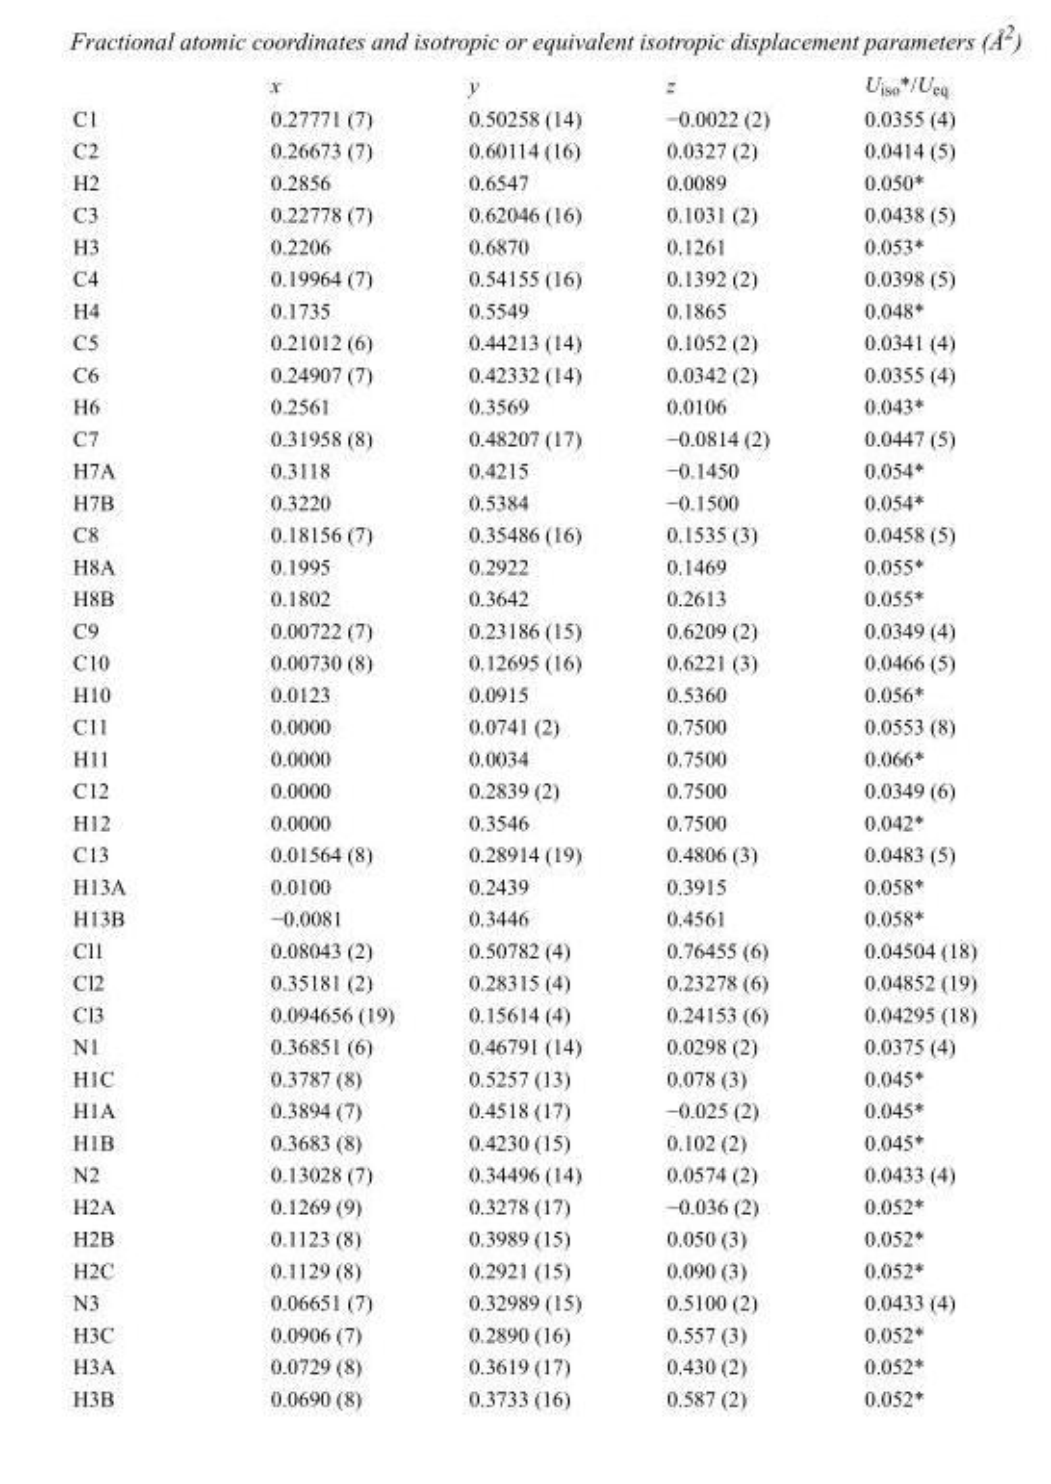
<table><thead><tr><td></td><td>x</td><td>y</td><td>z</td><td>U<sub>iso</sub>*/U<sub>eq</sub></td></tr></thead><tbody><tr><td>C1</td><td>0.27771 (7)</td><td>0.50258 (14)</td><td>−0.0022 (2)</td><td>0.0355 (4)</td></tr><tr><td>C2</td><td>0.26673 (7)</td><td>0.60114 (16)</td><td>0.0327 (2)</td><td>0.0414 (5)</td></tr><tr><td>H2</td><td>0.2856</td><td>0.6547</td><td>0.0089</td><td>0.050*</td></tr><tr><td>C3</td><td>0.22778 (7)</td><td>0.62046 (16)</td><td>0.1031 (2)</td><td>0.0438 (5)</td></tr><tr><td>H3</td><td>0.2206</td><td>0.6870</td><td>0.1261</td><td>0.053*</td></tr><tr><td>C4</td><td>0.19964 (7)</td><td>0.54155 (16)</td><td>0.1392 (2)</td><td>0.0398 (5)</td></tr><tr><td>H4</td><td>0.1735</td><td>0.5549</td><td>0.1865</td><td>0.048*</td></tr><tr><td>C5</td><td>0.21012 (6)</td><td>0.44213 (14)</td><td>0.1052 (2)</td><td>0.0341 (4)</td></tr><tr><td>C6</td><td>0.24907 (7)</td><td>0.42332 (14)</td><td>0.0342 (2)</td><td>0.0355 (4)</td></tr><tr><td>H6</td><td>0.2561</td><td>0.3569</td><td>0.0106</td><td>0.043*</td></tr><tr><td>C7</td><td>0.31958 (8)</td><td>0.48207 (17)</td><td>−0.0814 (2)</td><td>0.0447 (5)</td></tr><tr><td>H7A</td><td>0.3118</td><td>0.4215</td><td>−0.1450</td><td>0.054*</td></tr><tr><td>H7B</td><td>0.3220</td><td>0.5384</td><td>−0.1500</td><td>0.054*</td></tr><tr><td>C8</td><td>0.18156 (7)</td><td>0.35486 (16)</td><td>0.1535 (3)</td><td>0.0458 (5)</td></tr><tr><td>H8A</td><td>0.1995</td><td>0.2922</td><td>0.1469</td><td>0.055*</td></tr><tr><td>H8B</td><td>0.1802</td><td>0.3642</td><td>0.2613</td><td>0.055*</td></tr><tr><td>C9</td><td>0.00722 (7)</td><td>0.23186 (15)</td><td>0.6209 (2)</td><td>0.0349 (4)</td></tr><tr><td>C10</td><td>0.00730 (8)</td><td>0.12695 (16)</td><td>0.6221 (3)</td><td>0.0466 (5)</td></tr><tr><td>H10</td><td>0.0123</td><td>0.0915</td><td>0.5360</td><td>0.056*</td></tr><tr><td>C11</td><td>0.0000</td><td>0.0741 (2)</td><td>0.7500</td><td>0.0553 (8)</td></tr><tr><td>H11</td><td>0.0000</td><td>0.0034</td><td>0.7500</td><td>0.066*</td></tr><tr><td>C12</td><td>0.0000</td><td>0.2839 (2)</td><td>0.7500</td><td>0.0349 (6)</td></tr><tr><td>H12</td><td>0.0000</td><td>0.3546</td><td>0.7500</td><td>0.042*</td></tr><tr><td>C13</td><td>0.01564 (8)</td><td>0.28914 (19)</td><td>0.4806 (3)</td><td>0.0483 (5)</td></tr><tr><td>H13A</td><td>0.0100</td><td>0.2439</td><td>0.3915</td><td>0.058*</td></tr><tr><td>H13B</td><td>−0.0081</td><td>0.3446</td><td>0.4561</td><td>0.058*</td></tr><tr><td>Cl1</td><td>0.08043 (2)</td><td>0.50782 (4)</td><td>0.76455 (6)</td><td>0.04504 (18)</td></tr><tr><td>Cl2</td><td>0.35181 (2)</td><td>0.28315 (4)</td><td>0.23278 (6)</td><td>0.04852 (19)</td></tr><tr><td>Cl3</td><td>0.094656 (19)</td><td>0.15614 (4)</td><td>0.24153 (6)</td><td>0.04295 (18)</td></tr><tr><td>N1</td><td>0.36851 (6)</td><td>0.46791 (14)</td><td>0.0298 (2)</td><td>0.0375 (4)</td></tr><tr><td>H1C</td><td>0.3787 (8)</td><td>0.5257 (13)</td><td>0.078 (3)</td><td>0.045*</td></tr><tr><td>H1A</td><td>0.3894 (7)</td><td>0.4518 (17)</td><td>−0.025 (2)</td><td>0.045*</td></tr><tr><td>H1B</td><td>0.3683 (8)</td><td>0.4230 (15)</td><td>0.102 (2)</td><td>0.045*</td></tr><tr><td>N2</td><td>0.13028 (7)</td><td>0.34496 (14)</td><td>0.0574 (2)</td><td>0.0433 (4)</td></tr><tr><td>H2A</td><td>0.1269 (9)</td><td>0.3278 (17)</td><td>−0.036 (2)</td><td>0.052*</td></tr><tr><td>H2B</td><td>0.1123 (8)</td><td>0.3989 (15)</td><td>0.050 (3)</td><td>0.052*</td></tr><tr><td>H2C</td><td>0.1129 (8)</td><td>0.2921 (15)</td><td>0.090 (3)</td><td>0.052*</td></tr><tr><td>N3</td><td>0.06651 (7)</td><td>0.32989 (15)</td><td>0.5100 (2)</td><td>0.0433 (4)</td></tr><tr><td>H3C</td><td>0.0906 (7)</td><td>0.2890 (16)</td><td>0.557 (3)</td><td>0.052*</td></tr><tr><td>H3A</td><td>0.0729 (8)</td><td>0.3619 (17)</td><td>0.430 (2)</td><td>0.052*</td></tr><tr><td>H3B</td><td>0.0690 (8)</td><td>0.3733 (16)</td><td>0.587 (2)</td><td>0.052*</td></tr></tbody></table>